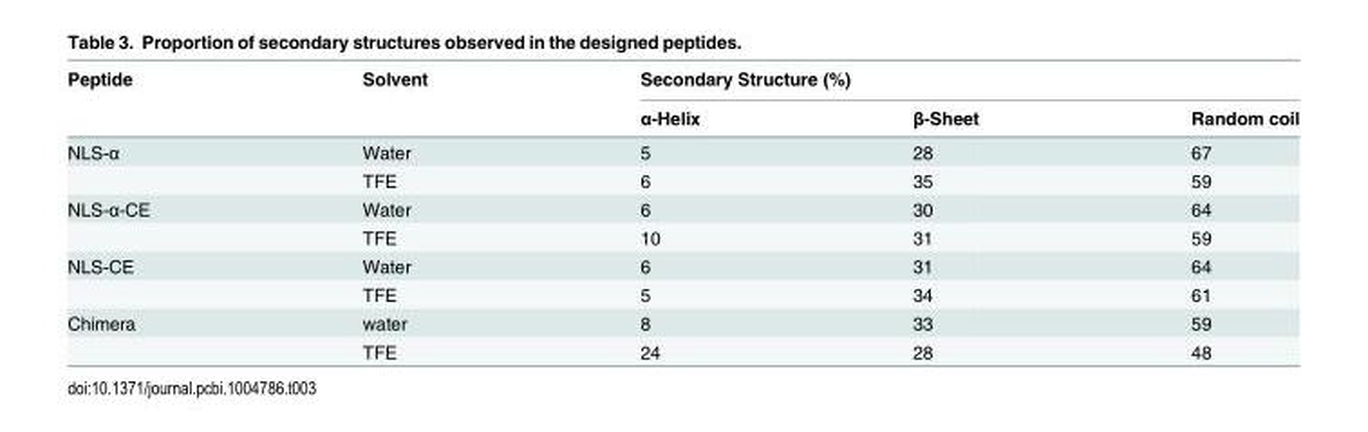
<table><thead><tr><td rowspan="2">Peptide</td><td rowspan="2">Solvent</td><td colspan="3">Secondary Structure (%)</td></tr><tr><td>α-Helix</td><td>β-Sheet</td><td>Random coil</td></tr></thead><tbody><tr><td rowspan="2">NLS-α</td><td>Water</td><td>5</td><td>28</td><td>67</td></tr><tr><td>TFE</td><td>6</td><td>35</td><td>59</td></tr><tr><td rowspan="2">NLS-α-CE</td><td>Water</td><td>6</td><td>30</td><td>64</td></tr><tr><td>TFE</td><td>10</td><td>31</td><td>59</td></tr><tr><td rowspan="2">NLS-CE</td><td>Water</td><td>6</td><td>31</td><td>64</td></tr><tr><td>TFE</td><td>5</td><td>34</td><td>61</td></tr><tr><td rowspan="2">Chimera</td><td>water</td><td>8</td><td>33</td><td>59</td></tr><tr><td>TFE</td><td>24</td><td>28</td><td>48</td></tr></tbody></table>